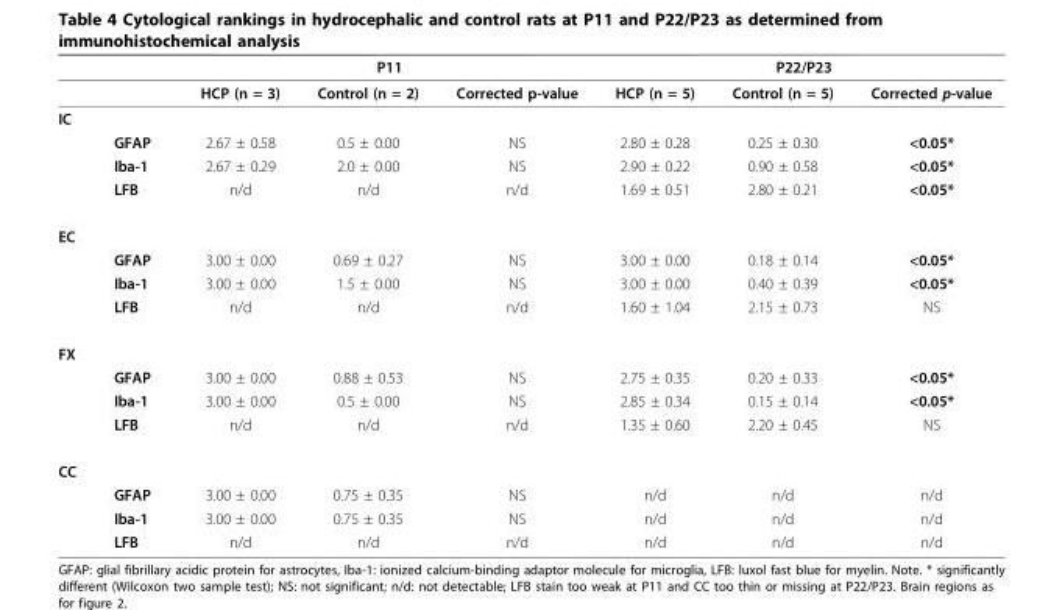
<table><thead><tr><td rowspan="2"></td><td rowspan="2"></td><td colspan="3">P11</td><td colspan="3">P22/P23</td></tr><tr><td>HCP (n = 3)</td><td>Control (n = 2)</td><td>Corrected p-value</td><td>HCP (n = 5)</td><td>Control (n = 5)</td><td>Corrected p-value</td></tr></thead><tbody><tr><td colspan="8">IC</td></tr><tr><td></td><td>GFAP</td><td>2.67 ± 0.58</td><td>0.5 ± 0.00</td><td>NS</td><td>2.80 ± 0.28</td><td>0.25 ± 0.30</td><td>&lt;0.05*</td></tr><tr><td></td><td>Iba-1</td><td>2.67 ± 0.29</td><td>2.0 ± 0.00</td><td>NS</td><td>2.90 ± 0.22</td><td>0.90 ± 0.58</td><td>&lt;0.05*</td></tr><tr><td></td><td>LFB</td><td>n/d</td><td>n/d</td><td>n/d</td><td>1.69 ± 0.51</td><td>2.80 ± 0.21</td><td>&lt;0.05*</td></tr><tr><td colspan="8">EC</td></tr><tr><td></td><td>GFAP</td><td>3.00 ± 0.00</td><td>0.69 ± 0.27</td><td>NS</td><td>3.00 ± 0.00</td><td>0.18 ± 0.14</td><td>&lt;0.05*</td></tr><tr><td></td><td>Iba-1</td><td>3.00 ± 0.00</td><td>1.5 ± 0.00</td><td>NS</td><td>3.00 ± 0.00</td><td>0.40 ± 0.39</td><td>&lt;0.05*</td></tr><tr><td></td><td>LFB</td><td>n/d</td><td>n/d</td><td>n/d</td><td>1.60 ± 1.04</td><td>2.15 ± 0.73</td><td>NS</td></tr><tr><td colspan="8">FX</td></tr><tr><td></td><td>GFAP</td><td>3.00 ± 0.00</td><td>0.88 ± 0.53</td><td>NS</td><td>2.75 ± 0.35</td><td>0.20 ± 0.33</td><td>&lt;0.05*</td></tr><tr><td></td><td>Iba-1</td><td>3.00 ± 0.00</td><td>0.5 ± 0.00</td><td>NS</td><td>2.85 ± 0.34</td><td>0.15 ± 0.14</td><td>&lt;0.05*</td></tr><tr><td></td><td>LFB</td><td>n/d</td><td>n/d</td><td>n/d</td><td>1.35 ± 0.60</td><td>2.20 ± 0.45</td><td>NS</td></tr><tr><td colspan="8">CC</td></tr><tr><td></td><td>GFAP</td><td>3.00 ± 0.00</td><td>0.75 ± 0.35</td><td>NS</td><td>n/d</td><td>n/d</td><td>n/d</td></tr><tr><td></td><td>Iba-1</td><td>3.00 ± 0.00</td><td>0.75 ± 0.35</td><td>NS</td><td>n/d</td><td>n/d</td><td>n/d</td></tr><tr><td></td><td>LFB</td><td>n/d</td><td>n/d</td><td>n/d</td><td>n/d</td><td>n/d</td><td>n/d</td></tr></tbody></table>